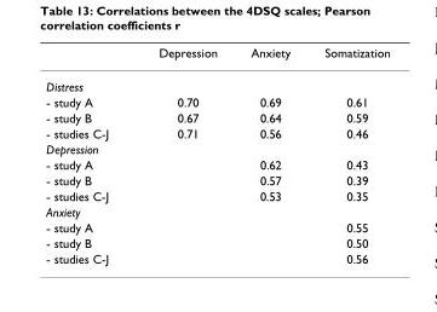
<table><thead><tr><td></td><td>Depression</td><td>Anxiety</td><td>Somatization</td></tr></thead><tbody><tr><td colspan="4">Distress</td></tr><tr><td>- study A</td><td>0.70</td><td>0.69</td><td>0.61</td></tr><tr><td>- study B</td><td>0.67</td><td>0.64</td><td>0.59</td></tr><tr><td>- studies C-J</td><td>0.71</td><td>0.56</td><td>0.46</td></tr><tr><td colspan="4">Depression</td></tr><tr><td>- study A</td><td></td><td>0.62</td><td>0.43</td></tr><tr><td>- study B</td><td></td><td>0.57</td><td>0.39</td></tr><tr><td>- studies C-J</td><td></td><td>0.53</td><td>0.35</td></tr><tr><td colspan="4">Anxiety</td></tr><tr><td>- study A</td><td></td><td></td><td>0.55</td></tr><tr><td>- study B</td><td></td><td></td><td>0.50</td></tr><tr><td>- studies C-J</td><td></td><td></td><td>0.56</td></tr></tbody></table>